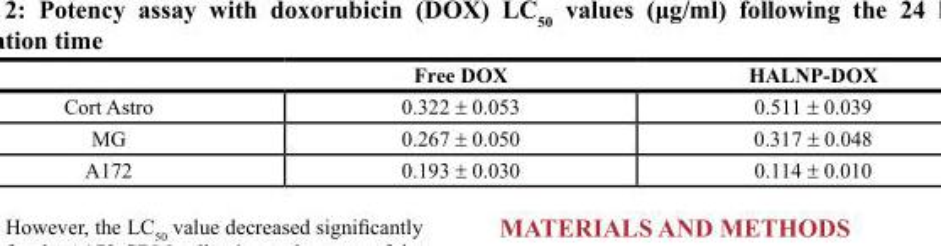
<table><thead><tr><td></td><td>Free DOX</td><td>HALNP-DOX</td></tr></thead><tbody><tr><td>Cort Astro</td><td>0.322 ± 0.053</td><td>0.511 ± 0.039</td></tr><tr><td>MG</td><td>0.267 ± 0.050</td><td>0.317 ± 0.048</td></tr><tr><td>A172</td><td>0.193 ± 0.030</td><td>0.114 ± 0.010</td></tr></tbody></table>